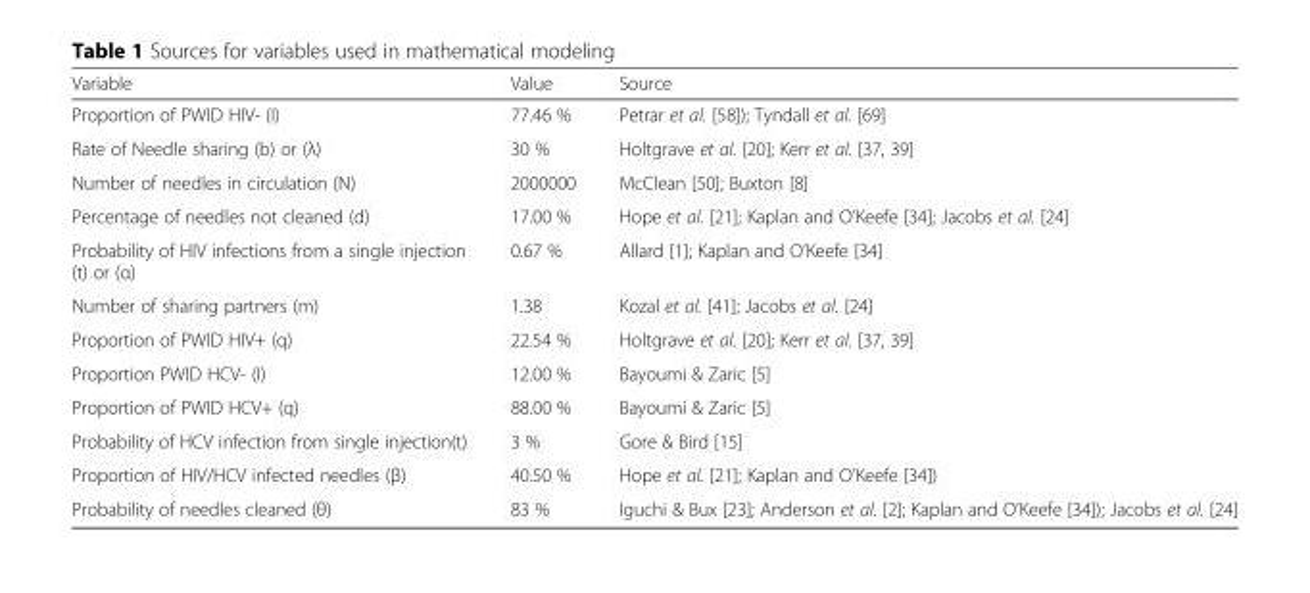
<table><thead><tr><td>Variable</td><td>Value</td><td>Source</td></tr></thead><tbody><tr><td>Proportion of PWID HIV- (I)</td><td>77.46 %</td><td>Petrar et al. [58]); Tyndall et al. [69]</td></tr><tr><td>Rate of Needle sharing (b) or (λ)</td><td>30 %</td><td>Holtgrave et al. [20]; Kerr et al. [37, 39]</td></tr><tr><td>Number of needles in circulation (N)</td><td>2000000</td><td>McClean [50]; Buxton [8]</td></tr><tr><td>Percentage of needles not cleaned (d)</td><td>17.00 %</td><td>Hope et al. [21]; Kaplan and O’Keefe [34]; Jacobs et al. [24]</td></tr><tr><td>Probability of HIV infections from a single injection (t) or (α)</td><td>0.67 %</td><td>Allard [1]; Kaplan and O’Keefe [34]</td></tr><tr><td>Number of sharing partners (m)</td><td>1.38</td><td>Kozal et al. [41]; Jacobs et al. [24]</td></tr><tr><td>Proportion of PWID HIV+ (q)</td><td>22.54 %</td><td>Holtgrave et al. [20]; Kerr et al. [37, 39]</td></tr><tr><td>Proportion PWID HCV- (I)</td><td>12.00 %</td><td>Bayoumi &amp; Zaric [5]</td></tr><tr><td>Proportion of PWID HCV+ (q)</td><td>88.00 %</td><td>Bayoumi &amp; Zaric [5]</td></tr><tr><td>Probability of HCV infection from single injection(t)</td><td>3 %</td><td>Gore &amp; Bird [15]</td></tr><tr><td>Proportion of HIV/HCV infected needles (β)</td><td>40.50 %</td><td>Hope et al. [21]; Kaplan and O’Keefe [34])</td></tr><tr><td>Probability of needles cleaned (θ)</td><td>83 %</td><td>Iguchi &amp; Bux [23]; Anderson et al. [2]; Kaplan and O’Keefe [34]); Jacobs et al. [24]</td></tr></tbody></table>